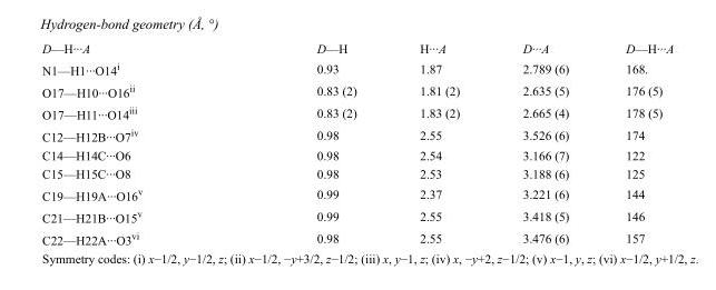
<table><tbody><tr><td>D—H···A</td><td>D—H</td><td>H···A</td><td>D···A</td><td>D—H···A</td></tr><tr><td>N1—H1···O14<sup>i</sup></td><td>0.93</td><td>1.87</td><td>2.789 (6)</td><td>168.</td></tr><tr><td>O17—H10···O16<sup>ii</sup></td><td>0.83 (2)</td><td>1.81 (2)</td><td>2.635 (5)</td><td>176 (5)</td></tr><tr><td>O17—H11···O14<sup>iii</sup></td><td>0.83 (2)</td><td>1.83 (2)</td><td>2.665 (4)</td><td>178 (5)</td></tr><tr><td>C12—H12B···O7<sup>iv</sup></td><td>0.98</td><td>2.55</td><td>3.526 (6)</td><td>174</td></tr><tr><td>C14—H14C···O6</td><td>0.98</td><td>2.54</td><td>3.166 (7)</td><td>122</td></tr><tr><td>C15—H15C···O8</td><td>0.98</td><td>2.53</td><td>3.188 (6)</td><td>125</td></tr><tr><td>C19—H19A···O16<sup>v</sup></td><td>0.99</td><td>2.37</td><td>3.221 (6)</td><td>144</td></tr><tr><td>C21—H21B···O15<sup>v</sup></td><td>0.99</td><td>2.55</td><td>3.418 (5)</td><td>146</td></tr><tr><td>C22—H22A···O3<sup>vi</sup></td><td>0.98</td><td>2.55</td><td>3.476 (6)</td><td>157</td></tr></tbody></table>